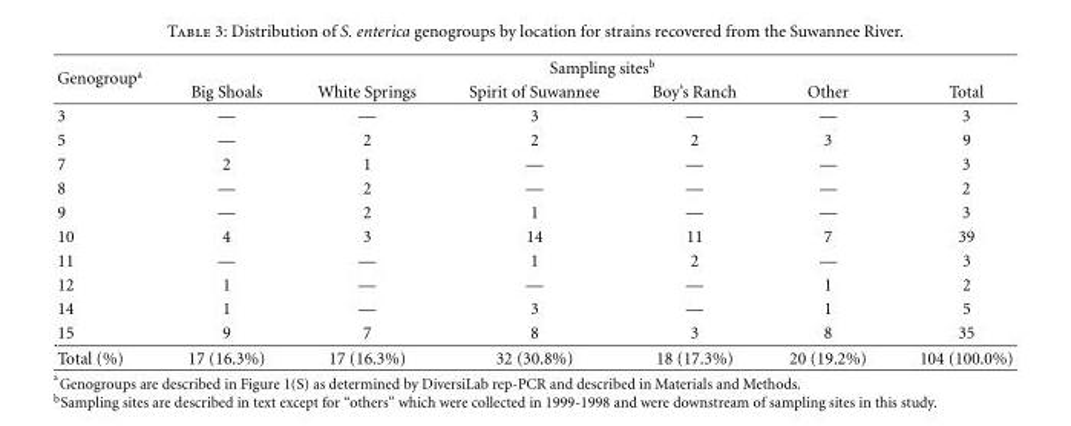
<table><thead><tr><td rowspan="2">Genogroup<sup>a</sup></td><td colspan="6">Sampling sites<sup>b</sup></td></tr><tr><td>Big Shoals</td><td>White Springs</td><td>Spirit of Suwannee</td><td>Boy’s Ranch</td><td>Other</td><td>Total</td></tr></thead><tbody><tr><td>3</td><td>—</td><td>—</td><td>3</td><td>—</td><td>—</td><td>3</td></tr><tr><td>5</td><td>—</td><td>2</td><td>2</td><td>2</td><td>3</td><td>9</td></tr><tr><td>7</td><td>2</td><td>1</td><td>—</td><td>—</td><td>—</td><td>3</td></tr><tr><td>8</td><td>—</td><td>2</td><td>—</td><td>—</td><td>—</td><td>2</td></tr><tr><td>9</td><td>—</td><td>2</td><td>1</td><td>—</td><td>—</td><td>3</td></tr><tr><td>10</td><td>4</td><td>3</td><td>14</td><td>11</td><td>7</td><td>39</td></tr><tr><td>11</td><td>—</td><td>—</td><td>1</td><td>2</td><td>—</td><td>3</td></tr><tr><td>12</td><td>1</td><td>—</td><td>—</td><td>—</td><td>1</td><td>2</td></tr><tr><td>14</td><td>1</td><td>—</td><td>3</td><td>—</td><td>1</td><td>5</td></tr><tr><td>15</td><td>9</td><td>7</td><td>8</td><td>3</td><td>8</td><td>35</td></tr><tr><td>Total (%)</td><td>17 (16.3%)</td><td>17 (16.3%)</td><td>32 (30.8%)</td><td>18 (17.3%)</td><td>20 (19.2%)</td><td>104 (100.0%)</td></tr></tbody></table>